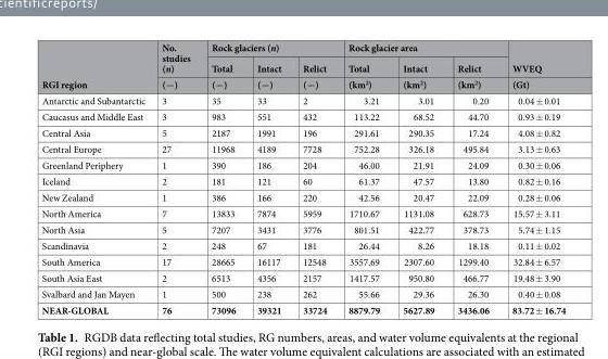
<table><thead><tr><td rowspan="3">RGI region</td><td rowspan="3">No. studies (n) (−)</td><td colspan="3">Rock glaciers (n)</td><td colspan="3">Rock glacier area</td><td rowspan="3">WVEQ (Gt)</td></tr><tr><td rowspan="2">Total (−)</td><td rowspan="2">Intact (−)</td><td rowspan="2">Relict (−)</td><td rowspan="2">Total (km<sup>2</sup>)</td><td rowspan="2">Intact (km<sup>2</sup>)</td><td rowspan="2">Relict (km<sup>2</sup>)</td></tr><tr></tr></thead><tbody><tr><td>Antarctic and Subantarctic</td><td>3</td><td>35</td><td>33</td><td>2</td><td>3.21</td><td>3.01</td><td>0.20</td><td>0.04 ± 0.01</td></tr><tr><td>Caucasus and Middle East</td><td>3</td><td>983</td><td>551</td><td>432</td><td>113.22</td><td>68.52</td><td>44.70</td><td>0.93 ± 0.19</td></tr><tr><td>Central Asia</td><td>5</td><td>2187</td><td>1991</td><td>196</td><td>291.61</td><td>290.35</td><td>17.24</td><td>4.08 ± 0.82</td></tr><tr><td>Central Europe</td><td>27</td><td>11968</td><td>4189</td><td>7728</td><td>752.28</td><td>326.18</td><td>495.84</td><td>3.13 ± 0.63</td></tr><tr><td>Greenland Periphery</td><td>1</td><td>390</td><td>186</td><td>204</td><td>46.00</td><td>21.91</td><td>24.09</td><td>0.30 ± 0.06</td></tr><tr><td>Iceland</td><td>2</td><td>181</td><td>121</td><td>60</td><td>61.37</td><td>47.57</td><td>13.80</td><td>0.82 ± 0.16</td></tr><tr><td>New Zealand</td><td>1</td><td>386</td><td>166</td><td>220</td><td>42.56</td><td>20.47</td><td>22.09</td><td>0.28 ± 0.06</td></tr><tr><td>North America</td><td>7</td><td>13833</td><td>7874</td><td>5959</td><td>1710.67</td><td>1131.08</td><td>628.73</td><td>15.57 ± 3.11</td></tr><tr><td>North Asia</td><td>5</td><td>7207</td><td>3431</td><td>3776</td><td>801.51</td><td>422.77</td><td>378.73</td><td>5.74 ± 1.15</td></tr><tr><td>Scandinavia</td><td>2</td><td>248</td><td>67</td><td>181</td><td>26.44</td><td>8.26</td><td>18.18</td><td>0.11 ± 0.02</td></tr><tr><td>South America</td><td>17</td><td>28665</td><td>16117</td><td>12548</td><td>3557.69</td><td>2307.60</td><td>1299.40</td><td>32.84 ± 6.57</td></tr><tr><td>South Asia East</td><td>2</td><td>6513</td><td>4356</td><td>2157</td><td>1417.57</td><td>950.80</td><td>466.77</td><td>19.48 ± 3.90</td></tr><tr><td>Svalbard and Jan Mayen</td><td>1</td><td>500</td><td>238</td><td>262</td><td>55.66</td><td>29.36</td><td>26.30</td><td>0.40 ± 0.08</td></tr><tr><td>NEAR-GLOBAL</td><td>76</td><td>73096</td><td>39321</td><td>33724</td><td>8879.79</td><td>5627.89</td><td>3436.06</td><td>83.72 ± 16.74</td></tr></tbody></table>